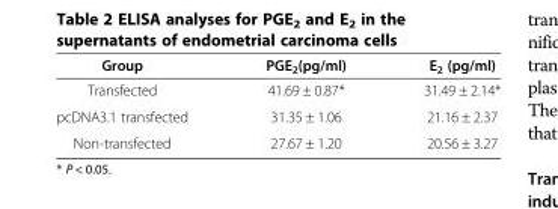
<table><thead><tr><td>Group</td><td>PGE<sub>2</sub>(pg/ml)</td><td>E<sub>2</sub> (pg/ml)</td></tr></thead><tbody><tr><td>Transfected</td><td>41.69 ± 0.87*</td><td>31.49 ± 2.14*</td></tr><tr><td>pcDNA3.1 transfected</td><td>31.35 ± 1.06</td><td>21.16 ± 2.37</td></tr><tr><td>Non-transfected</td><td>27.67 ± 1.20</td><td>20.56 ± 3.27</td></tr></tbody></table>